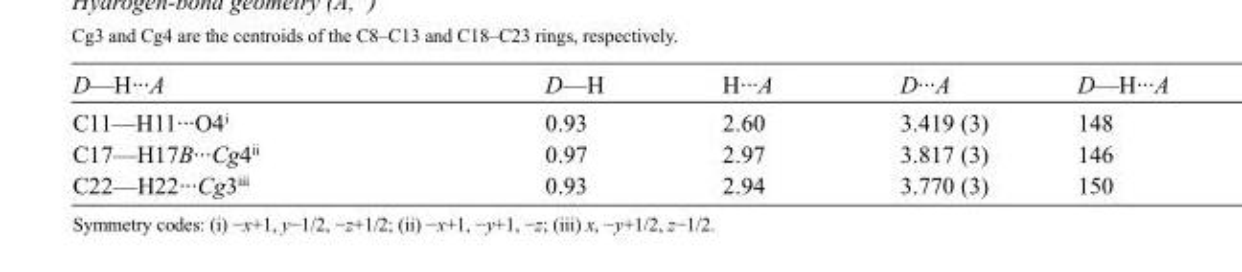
<table><tbody><tr><td>D—H···A</td><td>D—H</td><td>H···A</td><td>D···A</td><td>D—H···A</td></tr><tr><td>C11—H11···O4<sup>i</sup></td><td>0.93</td><td>2.60</td><td>3.419 (3)</td><td>148</td></tr><tr><td>C17—H17B···Cg4<sup>ii</sup></td><td>0.97</td><td>2.97</td><td>3.817 (3)</td><td>146</td></tr><tr><td>C22—H22···Cg3<sup>iii</sup></td><td>0.93</td><td>2.94</td><td>3.770 (3)</td><td>150</td></tr></tbody></table>